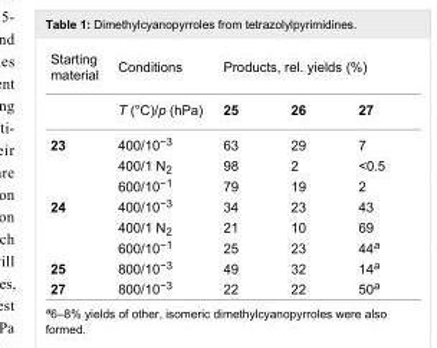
<table><tbody><tr><td rowspan="2">Starting material</td><td>Conditions</td><td colspan="3">Products, rel. yields (%)</td></tr><tr><td>T (°C)/p (hPa)</td><td>25</td><td>26</td><td>27</td></tr><tr><td rowspan="3">23</td><td>400/10<sup>−3</sup></td><td>63</td><td>29</td><td>7</td></tr><tr><td>400/1 N<sub>2</sub></td><td>98</td><td>2</td><td>&lt;0.5</td></tr><tr><td>600/10<sup>−1</sup></td><td>79</td><td>19</td><td>2</td></tr><tr><td rowspan="3">24</td><td>400/10<sup>−3</sup></td><td>34</td><td>23</td><td>43</td></tr><tr><td>400/1 N<sub>2</sub></td><td>21</td><td>10</td><td>69</td></tr><tr><td>600/10<sup>−1</sup></td><td>25</td><td>23</td><td>44<sup>a</sup></td></tr><tr><td>25</td><td>800/10<sup>−3</sup></td><td>49</td><td>32</td><td>14<sup>a</sup></td></tr><tr><td>27</td><td>800/10<sup>−3</sup></td><td>22</td><td>22</td><td>50<sup>a</sup></td></tr></tbody></table>